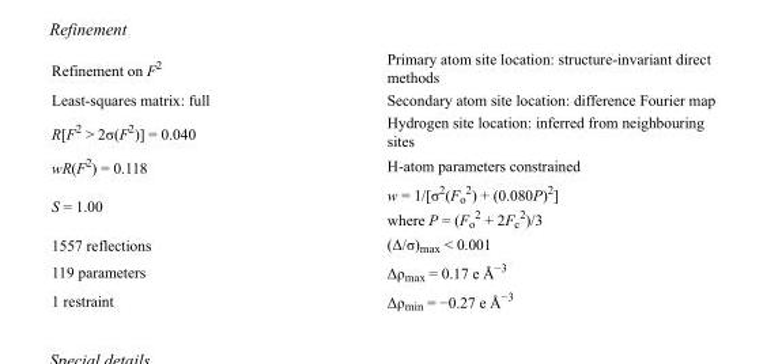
<table><tbody><tr><td>Refinement on F<sup>2</sup></td><td>Primary atom site location: structure-invariant direct methods</td></tr><tr><td>Least-squares matrix: full</td><td>Secondary atom site location: difference Fourier map</td></tr><tr><td>R[F<sup>2</sup> &gt; 2σ(F<sup>2</sup>)] = 0.040</td><td>Hydrogen site location: inferred from neighbouring sites</td></tr><tr><td>wR(F<sup>2</sup>) = 0.118</td><td>H-atom parameters constrained</td></tr><tr><td>S = 1.00</td><td>w = 1/[σ<sup>2</sup>(F<sub>o</sub> <sup>2</sup>) + (0.080P)<sup>2</sup>] where P = (F<sub>o</sub> <sup>2</sup> + 2F<sub>c</sub> <sup>2</sup>)/3</td></tr><tr><td>1557 reflections</td><td>(Δ/σ)<sub>max</sub> &lt; 0.001</td></tr><tr><td>119 parameters</td><td>Δρ<sub>max</sub> = 0.17 e Å<sup>−3</sup></td></tr><tr><td>1 restraint</td><td>Δρ<sub>min</sub> = −0.27 e Å<sup>−3</sup></td></tr></tbody></table>